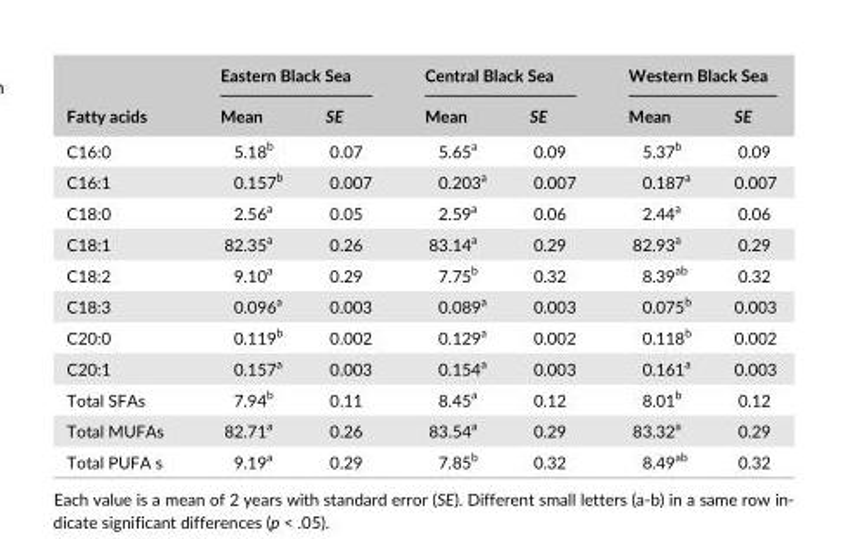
<table><thead><tr><td rowspan="2">Fatty acids</td><td colspan="2">Eastern Black Sea</td><td colspan="2">Central Black Sea</td><td colspan="2">Western Black Sea</td></tr><tr><td>Mean</td><td>SE</td><td>Mean</td><td>SE</td><td>Mean</td><td>SE</td></tr></thead><tbody><tr><td>C16:0</td><td>5.18<sup>b</sup></td><td>0.07</td><td>5.65<sup>a</sup></td><td>0.09</td><td>5.37<sup>b</sup></td><td>0.09</td></tr><tr><td>C16:1</td><td>0.157<sup>b</sup></td><td>0.007</td><td>0.203<sup>a</sup></td><td>0.007</td><td>0.187<sup>a</sup></td><td>0.007</td></tr><tr><td>C18:0</td><td>2.56<sup>a</sup></td><td>0.05</td><td>2.59<sup>a</sup></td><td>0.06</td><td>2.44<sup>a</sup></td><td>0.06</td></tr><tr><td>C18:1</td><td>82.35<sup>a</sup></td><td>0.26</td><td>83.14<sup>a</sup></td><td>0.29</td><td>82.93<sup>a</sup></td><td>0.29</td></tr><tr><td>C18:2</td><td>9.10<sup>a</sup></td><td>0.29</td><td>7.75<sup>b</sup></td><td>0.32</td><td>8.39<sup>ab</sup></td><td>0.32</td></tr><tr><td>C18:3</td><td>0.096<sup>a</sup></td><td>0.003</td><td>0.089<sup>a</sup></td><td>0.003</td><td>0.075<sup>b</sup></td><td>0.003</td></tr><tr><td>C20:0</td><td>0.119<sup>b</sup></td><td>0.002</td><td>0.129<sup>a</sup></td><td>0.002</td><td>0.118<sup>b</sup></td><td>0.002</td></tr><tr><td>C20:1</td><td>0.157<sup>a</sup></td><td>0.003</td><td>0.154<sup>a</sup></td><td>0.003</td><td>0.161<sup>a</sup></td><td>0.003</td></tr><tr><td>Total SFAs</td><td>7.94<sup>b</sup></td><td>0.11</td><td>8.45<sup>a</sup></td><td>0.12</td><td>8.01<sup>b</sup></td><td>0.12</td></tr><tr><td>Total MUFAs</td><td>82.71<sup>a</sup></td><td>0.26</td><td>83.54<sup>a</sup></td><td>0.29</td><td>83.32<sup>a</sup></td><td>0.29</td></tr><tr><td>Total PUFA s</td><td>9.19<sup>a</sup></td><td>0.29</td><td>7.85<sup>b</sup></td><td>0.32</td><td>8.49<sup>ab</sup></td><td>0.32</td></tr></tbody></table>